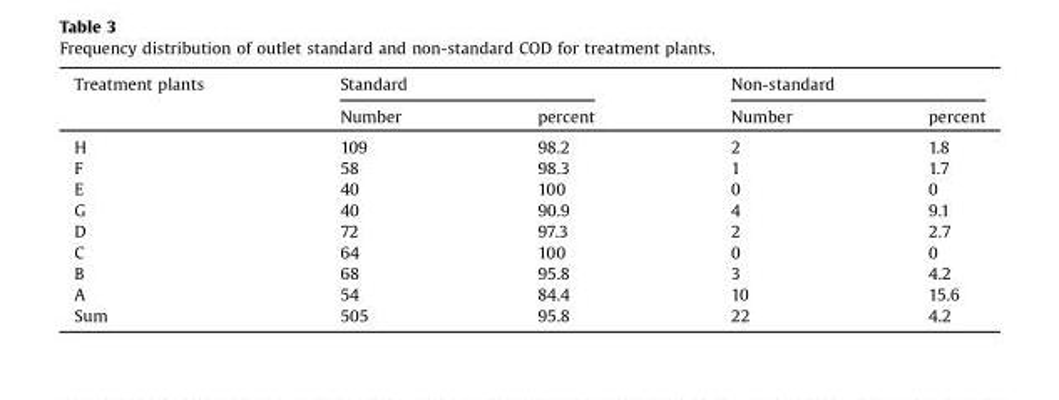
<table><thead><tr><td rowspan="2">Treatment plants</td><td colspan="2">Standard</td><td colspan="2">Non-standard</td></tr><tr><td>Number</td><td>percent</td><td>Number</td><td>percent</td></tr></thead><tbody><tr><td>H</td><td>109</td><td>98.2</td><td>2</td><td>1.8</td></tr><tr><td>F</td><td>58</td><td>98.3</td><td>1</td><td>1.7</td></tr><tr><td>E</td><td>40</td><td>100</td><td>0</td><td>0</td></tr><tr><td>G</td><td>40</td><td>90.9</td><td>4</td><td>9.1</td></tr><tr><td>D</td><td>72</td><td>97.3</td><td>2</td><td>2.7</td></tr><tr><td>C</td><td>64</td><td>100</td><td>0</td><td>0</td></tr><tr><td>B</td><td>68</td><td>95.8</td><td>3</td><td>4.2</td></tr><tr><td>A</td><td>54</td><td>84.4</td><td>10</td><td>15.6</td></tr><tr><td>Sum</td><td>505</td><td>95.8</td><td>22</td><td>4.2</td></tr></tbody></table>